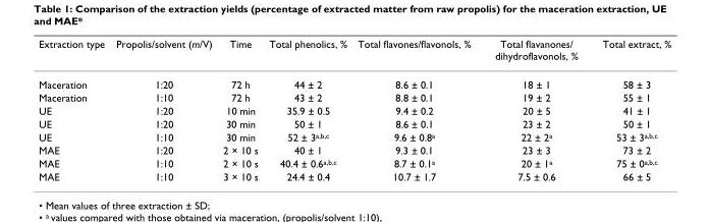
<table><thead><tr><td>Extraction type</td><td>Propolis/solvent (m/V)</td><td>Time</td><td>Total phenolics, %</td><td>Total flavones/flavonols, %</td><td>Total flavanones/ dihydroflavonols, %</td><td>Total extract, %</td></tr></thead><tbody><tr><td>Maceration</td><td>1:20</td><td>72 h</td><td>44 ± 2</td><td>8.6 ± 0.1</td><td>18 ± 1</td><td>58 ± 3</td></tr><tr><td>Maceration</td><td>1:10</td><td>72 h</td><td>43 ± 2</td><td>8.8 ± 0.1</td><td>19 ± 2</td><td>55 ± 1</td></tr><tr><td>UE</td><td>1:20</td><td>10 min</td><td>35.9 ± 0.5</td><td>9.4 ± 0.2</td><td>20 ± 5</td><td>41 ± 1</td></tr><tr><td>UE</td><td>1:20</td><td>30 min</td><td>50 ± 1</td><td>8.6 ± 0.1</td><td>23 ± 2</td><td>50 ± 1</td></tr><tr><td>UE</td><td>1:10</td><td>30 min</td><td>52 ± 3<sup>a,b,c</sup></td><td>9.6 ± 0.8<sup>a</sup></td><td>22 ± 2<sup>a</sup></td><td>53 ± 3<sup>a,b,c</sup></td></tr><tr><td>MAE</td><td>1:20</td><td>2 × 10 s</td><td>40 ± 1</td><td>9.3 ± 0.1</td><td>23 ± 3</td><td>73 ± 2</td></tr><tr><td>MAE</td><td>1:10</td><td>2 × 10 s</td><td>40.4 ± 0.6<sup>a,b,c</sup></td><td>8.7 ± 0.1<sup>a</sup></td><td>20 ± 1<sup>a</sup></td><td>75 ± 0<sup>a,b,c</sup></td></tr><tr><td>MAE</td><td>1:10</td><td>3 × 10 s</td><td>24.4 ± 0.4</td><td>10.7 ± 1.7</td><td>7.5 ± 0.6</td><td>66 ± 5</td></tr></tbody></table>